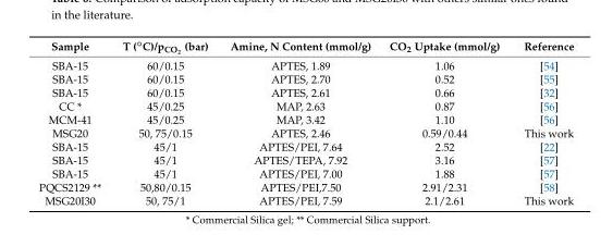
<table><thead><tr><td>Sample</td><td>T (◦C)/pCO2 (bar)</td><td>Amine, N Content (mmol/g)</td><td>CO<sub>2</sub> Uptake (mmol/g)</td><td>Reference</td></tr></thead><tbody><tr><td>SBA-15</td><td>60/0.15</td><td>APTES, 1.89</td><td>1.06</td><td>[54]</td></tr><tr><td>SBA-15</td><td>60/0.15</td><td>APTES, 2.70</td><td>0.52</td><td>[55]</td></tr><tr><td>SBA-15</td><td>60/0.15</td><td>APTES, 2.61</td><td>0.66</td><td>[32]</td></tr><tr><td>CC *</td><td>45/0.25</td><td>MAP, 2.63</td><td>0.87</td><td>[56]</td></tr><tr><td>MCM-41</td><td>45/0.25</td><td>MAP, 3.42</td><td>1.10</td><td>[56]</td></tr><tr><td>MSG20</td><td>50, 75/0.15</td><td>APTES, 2.46</td><td>0.59/0.44</td><td>This work</td></tr><tr><td>SBA-15</td><td>45/1</td><td>APTES/PEI, 7.64</td><td>2.52</td><td>[22]</td></tr><tr><td>SBA-15</td><td>45/1</td><td>APTES/TEPA, 7.92</td><td>3.16</td><td>[57]</td></tr><tr><td>SBA-15</td><td>45/1</td><td>APTES/PEI, 7.00</td><td>1.88</td><td>[57]</td></tr><tr><td>PQCS2129 **</td><td>50,80/0.15</td><td>APTES/PEI,7.50</td><td>2.91/2.31</td><td>[58]</td></tr><tr><td>MSG20I30</td><td>50, 75/1</td><td>APTES/PEI, 7.59</td><td>2.1/2.61</td><td>This work</td></tr></tbody></table>